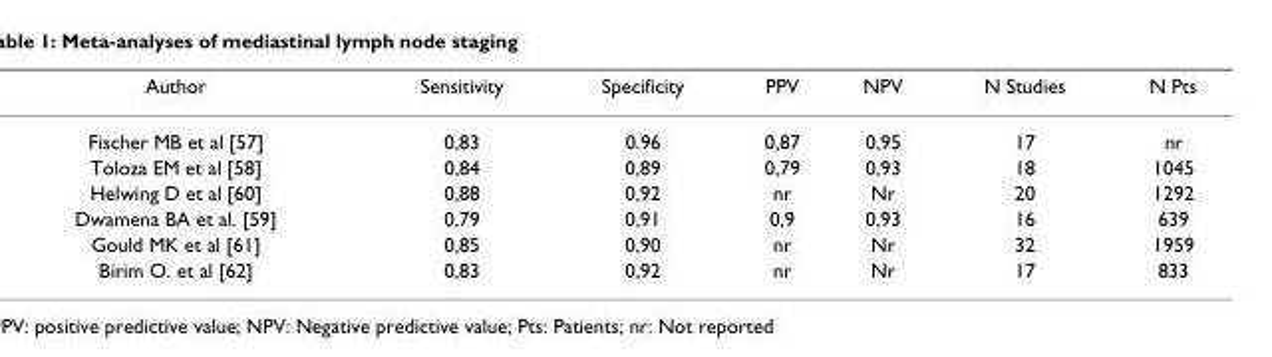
<table><thead><tr><td>Author</td><td>Sensitivity</td><td>Specificity</td><td>PPV</td><td>NPV</td><td>N Studies</td><td>N Pts</td></tr></thead><tbody><tr><td>Fischer MB et al [57]</td><td>0,83</td><td>0.96</td><td>0,87</td><td>0,95</td><td>17</td><td>nr</td></tr><tr><td>Toloza EM et al [58]</td><td>0,84</td><td>0,89</td><td>0,79</td><td>0,93</td><td>18</td><td>1045</td></tr><tr><td>Helwing D et al [60]</td><td>0,88</td><td>0,92</td><td>nr</td><td>Nr</td><td>20</td><td>1292</td></tr><tr><td>Dwamena BA et al. [59]</td><td>0,79</td><td>0,91</td><td>0,9</td><td>0,93</td><td>16</td><td>639</td></tr><tr><td>Gould MK et al [61]</td><td>0,85</td><td>0,90</td><td>nr</td><td>Nr</td><td>32</td><td>1959</td></tr><tr><td>Birim O. et al [62]</td><td>0,83</td><td>0,92</td><td>nr</td><td>Nr</td><td>17</td><td>833</td></tr></tbody></table>